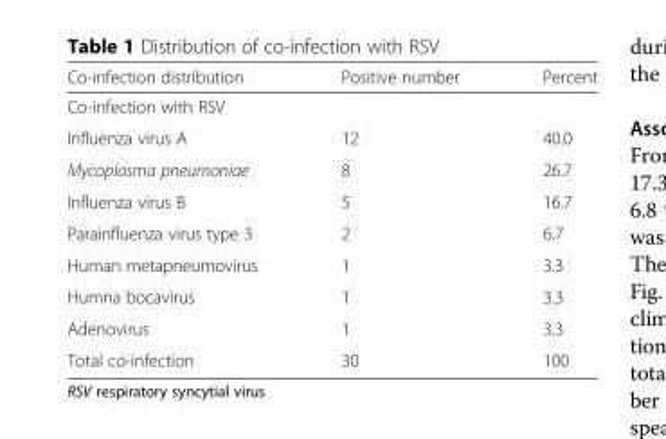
<table><thead><tr><td>Co-infection distribution</td><td>Positive number</td><td>Percent</td></tr></thead><tbody><tr><td colspan="3">Co-infection with RSV</td></tr><tr><td>Influenza virus A</td><td>12</td><td>40.0</td></tr><tr><td>Mycoplasma pneumoniae</td><td>8</td><td>26.7</td></tr><tr><td>Influenza virus B</td><td>5</td><td>16.7</td></tr><tr><td>Parainfluenza virus type 3</td><td>2</td><td>6.7</td></tr><tr><td>Human metapneumovirus</td><td>1</td><td>3.3</td></tr><tr><td>Humna bocavirus</td><td>1</td><td>3.3</td></tr><tr><td>Adenovirus</td><td>1</td><td>3.3</td></tr><tr><td>Total co-infection</td><td>30</td><td>100</td></tr></tbody></table>